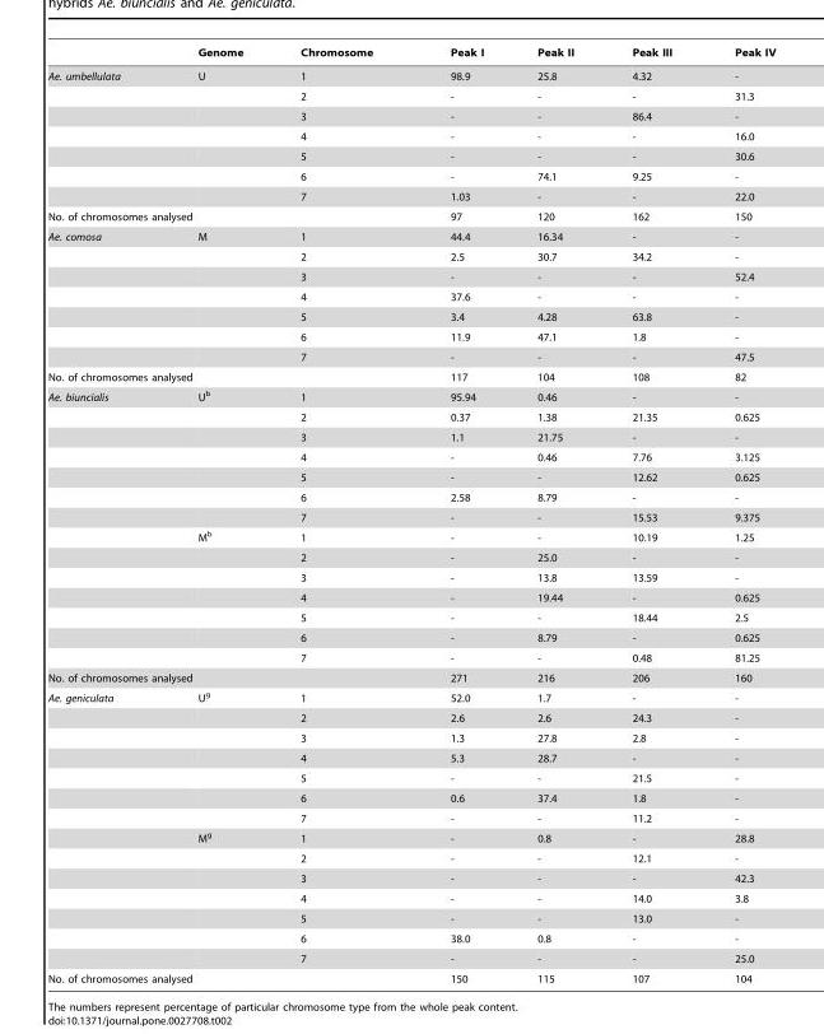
<table><thead><tr><td></td><td>Genome</td><td>Chromosome</td><td>Peak I</td><td>Peak II</td><td>Peak III</td><td>Peak IV</td></tr></thead><tbody><tr><td rowspan="7">Ae. umbellulata</td><td>U</td><td>1</td><td>98.9</td><td>25.8</td><td>4.32</td><td>-</td></tr><tr><td></td><td>2</td><td>-</td><td>-</td><td>-</td><td>31.3</td></tr><tr><td></td><td>3</td><td>-</td><td>-</td><td>86.4</td><td>-</td></tr><tr><td></td><td>4</td><td>-</td><td>-</td><td>-</td><td>16.0</td></tr><tr><td></td><td>5</td><td>-</td><td>-</td><td>-</td><td>30.6</td></tr><tr><td></td><td>6</td><td>-</td><td>74.1</td><td>9.25</td><td>-</td></tr><tr><td></td><td>7</td><td>1.03</td><td>-</td><td>-</td><td>22.0</td></tr><tr><td colspan="3">No. of chromosomes analysed</td><td>97</td><td>120</td><td>162</td><td>150</td></tr><tr><td rowspan="7">Ae. comosa</td><td>M</td><td>1</td><td>44.4</td><td>16.34</td><td>-</td><td>-</td></tr><tr><td></td><td>2</td><td>2.5</td><td>30.7</td><td>34.2</td><td>-</td></tr><tr><td></td><td>3</td><td>-</td><td>-</td><td>-</td><td>52.4</td></tr><tr><td></td><td>4</td><td>37.6</td><td>-</td><td>-</td><td>-</td></tr><tr><td></td><td>5</td><td>3.4</td><td>4.28</td><td>63.8</td><td>-</td></tr><tr><td></td><td>6</td><td>11.9</td><td>47.1</td><td>1.8</td><td>-</td></tr><tr><td></td><td>7</td><td>-</td><td>-</td><td>-</td><td>47.5</td></tr><tr><td colspan="3">No. of chromosomes analysed</td><td>117</td><td>104</td><td>108</td><td>82</td></tr><tr><td rowspan="14">Ae. biuncialis</td><td>U<sup>b</sup></td><td>1</td><td>95.94</td><td>0.46</td><td>-</td><td>-</td></tr><tr><td></td><td>2</td><td>0.37</td><td>1.38</td><td>21.35</td><td>0.625</td></tr><tr><td></td><td>3</td><td>1.1</td><td>21.75</td><td>-</td><td>-</td></tr><tr><td></td><td>4</td><td>-</td><td>0.46</td><td>7.76</td><td>3.125</td></tr><tr><td></td><td>5</td><td>-</td><td>-</td><td>12.62</td><td>0.625</td></tr><tr><td></td><td>6</td><td>2.58</td><td>8.79</td><td>-</td><td>-</td></tr><tr><td></td><td>7</td><td>-</td><td>-</td><td>15.53</td><td>9.375</td></tr><tr><td>M<sup>b</sup></td><td>1</td><td>-</td><td>-</td><td>10.19</td><td>1.25</td></tr><tr><td></td><td>2</td><td>-</td><td>25.0</td><td>-</td><td>-</td></tr><tr><td></td><td>3</td><td>-</td><td>13.8</td><td>13.59</td><td>-</td></tr><tr><td></td><td>4</td><td>-</td><td>19.44</td><td>-</td><td>0.625</td></tr><tr><td></td><td>5</td><td>-</td><td>-</td><td>18.44</td><td>2.5</td></tr><tr><td></td><td>6</td><td>-</td><td>8.79</td><td>-</td><td>0.625</td></tr><tr><td></td><td>7</td><td>-</td><td>-</td><td>0.48</td><td>81.25</td></tr><tr><td colspan="3">No. of chromosomes analysed</td><td>271</td><td>216</td><td>206</td><td>160</td></tr><tr><td rowspan="14">Ae. geniculata</td><td>U<sup>g</sup></td><td>1</td><td>52.0</td><td>1.7</td><td>-</td><td>-</td></tr><tr><td></td><td>2</td><td>2.6</td><td>2.6</td><td>24.3</td><td>-</td></tr><tr><td></td><td>3</td><td>1.3</td><td>27.8</td><td>2.8</td><td>-</td></tr><tr><td></td><td>4</td><td>5.3</td><td>28.7</td><td>-</td><td>-</td></tr><tr><td></td><td>5</td><td>-</td><td>-</td><td>21.5</td><td>-</td></tr><tr><td></td><td>6</td><td>0.6</td><td>37.4</td><td>1.8</td><td>-</td></tr><tr><td></td><td>7</td><td>-</td><td>-</td><td>11.2</td><td>-</td></tr><tr><td>M<sup>g</sup></td><td>1</td><td>-</td><td>0.8</td><td>-</td><td>28.8</td></tr><tr><td></td><td>2</td><td>-</td><td>-</td><td>12.1</td><td>-</td></tr><tr><td></td><td>3</td><td>-</td><td>-</td><td>-</td><td>42.3</td></tr><tr><td></td><td>4</td><td>-</td><td>-</td><td>14.0</td><td>3.8</td></tr><tr><td></td><td>5</td><td>-</td><td>-</td><td>13.0</td><td>-</td></tr><tr><td></td><td>6</td><td>38.0</td><td>0.8</td><td>-</td><td>-</td></tr><tr><td></td><td>7</td><td>-</td><td>-</td><td>-</td><td>25.0</td></tr><tr><td colspan="3">No. of chromosomes analysed</td><td>150</td><td>115</td><td>107</td><td>104</td></tr></tbody></table>